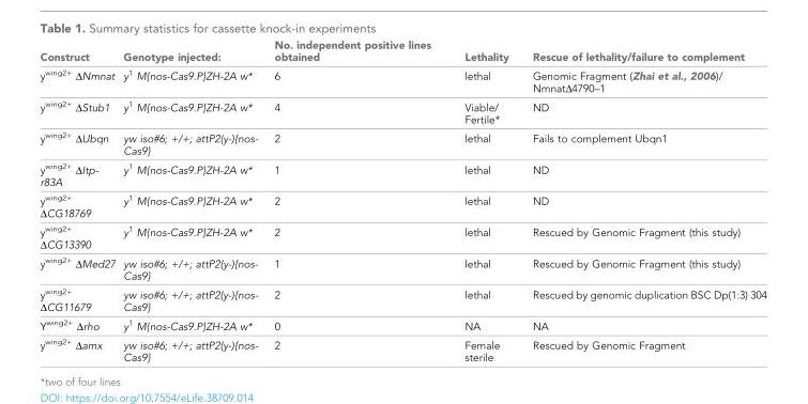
<table><thead><tr><td>Construct</td><td>Genotype injected:</td><td>No. independent positive lines obtained</td><td>Lethality</td><td>Rescue of lethality/failure to complement</td></tr></thead><tbody><tr><td>y<sup>wing2+</sup> ΔNmnat</td><td>y<sup>1</sup> M{nos-Cas9.P}ZH-2A w*</td><td>6</td><td>lethal</td><td>Genomic Fragment (Zhai et al., 2006)/ NmnatΔ4790–1</td></tr><tr><td>y<sup>wing2+</sup> ΔStub1</td><td>y<sup>1</sup> M{nos-Cas9.P}ZH-2A w*</td><td>4</td><td>Viable/ Fertile*</td><td>ND</td></tr><tr><td>y<sup>wing2+</sup> ΔUbqn</td><td>yw iso#6; +/+; attP2(y-){nos- Cas9}</td><td>2</td><td>lethal</td><td>Fails to complement Ubqn1</td></tr><tr><td>y<sup>wing2+</sup> ΔItp- r83A</td><td>y<sup>1</sup> M{nos-Cas9.P}ZH-2A w*</td><td>1</td><td>lethal</td><td>ND</td></tr><tr><td>y<sup>wing2+</sup> ΔCG18769</td><td>y<sup>1</sup> M{nos-Cas9.P}ZH-2A w*</td><td>2</td><td>lethal</td><td>ND</td></tr><tr><td>y<sup>wing2+</sup> ΔCG13390</td><td>y<sup>1</sup> M{nos-Cas9.P}ZH-2A w*</td><td>2</td><td>lethal</td><td>Rescued by Genomic Fragment (this study)</td></tr><tr><td>y<sup>wing2+</sup> ΔMed27</td><td>yw iso#6; +/+; attP2(y-){nos- Cas9}</td><td>1</td><td>lethal</td><td>Rescued by Genomic Fragment (this study)</td></tr><tr><td>y<sup>wing2+</sup> ΔCG11679</td><td>yw iso#6; +/+; attP2(y-){nos- Cas9}</td><td>2</td><td>lethal</td><td>Rescued by genomic duplication BSC Dp(1:3) 304</td></tr><tr><td>Y<sup>wing2+</sup> Δrho</td><td>y<sup>1</sup> M{nos-Cas9.P}ZH-2A w*</td><td>0</td><td>NA</td><td>NA</td></tr><tr><td>y<sup>wing2+</sup> Δamx</td><td>yw iso#6; +/+; attP2(y-){nos- Cas9}</td><td>2</td><td>Female sterile</td><td>Rescued by Genomic Fragment</td></tr></tbody></table>